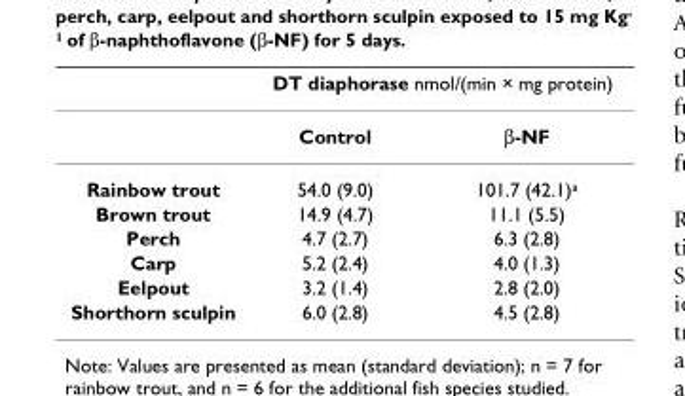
<table><thead><tr><td rowspan="2"></td><td colspan="2">DT diaphorase nmol/(min × mg protein)</td></tr><tr><td>Control</td><td>β-NF</td></tr></thead><tbody><tr><td>Rainbow trout</td><td>54.0 (9.0)</td><td>101.7 (42.1)<sup>a</sup></td></tr><tr><td>Brown trout</td><td>14.9 (4.7)</td><td>11.1 (5.5)</td></tr><tr><td>Perch</td><td>4.7 (2.7)</td><td>6.3 (2.8)</td></tr><tr><td>Carp</td><td>5.2 (2.4)</td><td>4.0 (1.3)</td></tr><tr><td>Eelpout</td><td>3.2 (1.4)</td><td>2.8 (2.0)</td></tr><tr><td>Shorthorn sculpin</td><td>6.0 (2.8)</td><td>4.5 (2.8)</td></tr></tbody></table>